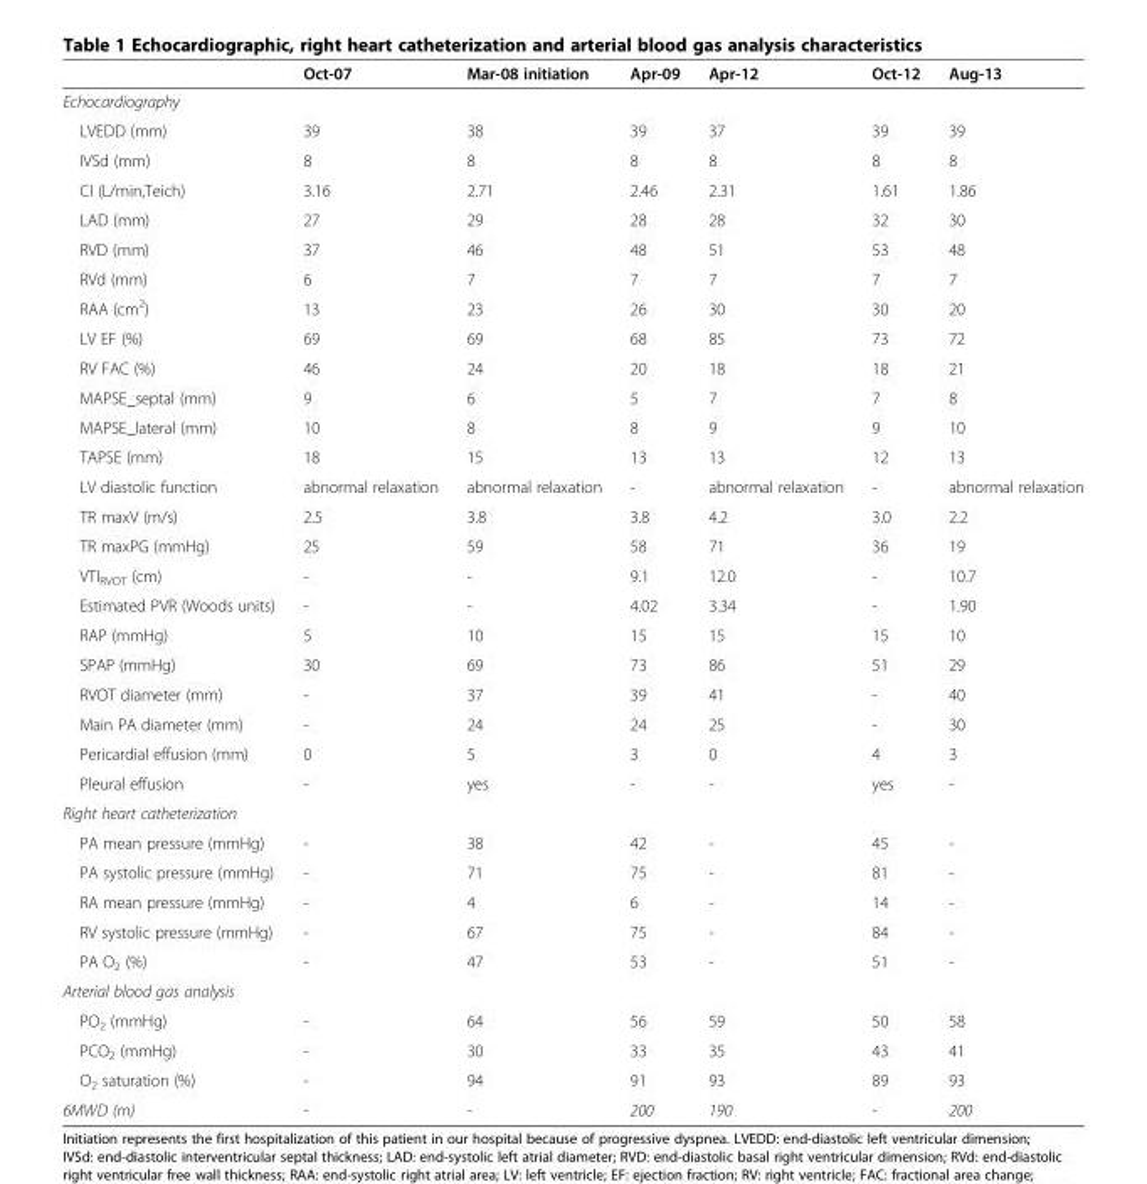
<table><thead><tr><td></td><td>Oct-07</td><td>Mar-08 initiation</td><td>Apr-09</td><td>Apr-12</td><td>Oct-12</td><td>Aug-13</td></tr></thead><tbody><tr><td colspan="7">Echocardiography</td></tr><tr><td>LVEDD (mm)</td><td>39</td><td>38</td><td>39</td><td>37</td><td>39</td><td>39</td></tr><tr><td>IVSd (mm)</td><td>8</td><td>8</td><td>8</td><td>8</td><td>8</td><td>8</td></tr><tr><td>CI (L/min,Teich)</td><td>3.16</td><td>2.71</td><td>2.46</td><td>2.31</td><td>1.61</td><td>1.86</td></tr><tr><td>LAD (mm)</td><td>27</td><td>29</td><td>28</td><td>28</td><td>32</td><td>30</td></tr><tr><td>RVD (mm)</td><td>37</td><td>46</td><td>48</td><td>51</td><td>53</td><td>48</td></tr><tr><td>RVd (mm)</td><td>6</td><td>7</td><td>7</td><td>7</td><td>7</td><td>7</td></tr><tr><td>RAA (cm<sup>2</sup>)</td><td>13</td><td>23</td><td>26</td><td>30</td><td>30</td><td>20</td></tr><tr><td>LV EF (%)</td><td>69</td><td>69</td><td>68</td><td>85</td><td>73</td><td>72</td></tr><tr><td>RV FAC (%)</td><td>46</td><td>24</td><td>20</td><td>18</td><td>18</td><td>21</td></tr><tr><td>MAPSE_septal (mm)</td><td>9</td><td>6</td><td>5</td><td>7</td><td>7</td><td>8</td></tr><tr><td>MAPSE_lateral (mm)</td><td>10</td><td>8</td><td>8</td><td>9</td><td>9</td><td>10</td></tr><tr><td>TAPSE (mm)</td><td>18</td><td>15</td><td>13</td><td>13</td><td>12</td><td>13</td></tr><tr><td>LV diastolic function</td><td>abnormal relaxation</td><td>abnormal relaxation</td><td>-</td><td>abnormal relaxation</td><td>-</td><td>abnormal relaxation</td></tr><tr><td>TR maxV (m/s)</td><td>2.5</td><td>3.8</td><td>3.8</td><td>4.2</td><td>3.0</td><td>2.2</td></tr><tr><td>TR maxPG (mmHg)</td><td>25</td><td>59</td><td>58</td><td>71</td><td>36</td><td>19</td></tr><tr><td>VTI<sub>RVOT</sub> (cm)</td><td>-</td><td>-</td><td>9.1</td><td>12.0</td><td>-</td><td>10.7</td></tr><tr><td>Estimated PVR (Woods units)</td><td>-</td><td>-</td><td>4.02</td><td>3.34</td><td>-</td><td>1.90</td></tr><tr><td>RAP (mmHg)</td><td>5</td><td>10</td><td>15</td><td>15</td><td>15</td><td>10</td></tr><tr><td>SPAP (mmHg)</td><td>30</td><td>69</td><td>73</td><td>86</td><td>51</td><td>29</td></tr><tr><td>RVOT diameter (mm)</td><td>-</td><td>37</td><td>39</td><td>41</td><td>-</td><td>40</td></tr><tr><td>Main PA diameter (mm)</td><td>-</td><td>24</td><td>24</td><td>25</td><td>-</td><td>30</td></tr><tr><td>Pericardial effusion (mm)</td><td>0</td><td>5</td><td>3</td><td>0</td><td>4</td><td>3</td></tr><tr><td>Pleural effusion</td><td>-</td><td>yes</td><td>-</td><td>-</td><td>yes</td><td>-</td></tr><tr><td colspan="7">Right heart catheterization</td></tr><tr><td>PA mean pressure (mmHg)</td><td>-</td><td>38</td><td>42</td><td>-</td><td>45</td><td>-</td></tr><tr><td>PA systolic pressure (mmHg)</td><td>-</td><td>71</td><td>75</td><td>-</td><td>81</td><td>-</td></tr><tr><td>RA mean pressure (mmHg)</td><td>-</td><td>4</td><td>6</td><td>-</td><td>14</td><td>-</td></tr><tr><td>RV systolic pressure (mmHg)</td><td>-</td><td>67</td><td>75</td><td>-</td><td>84</td><td>-</td></tr><tr><td>PA O<sub>2</sub> (%)</td><td>-</td><td>47</td><td>53</td><td>-</td><td>51</td><td>-</td></tr><tr><td colspan="7">Arterial blood gas analysis</td></tr><tr><td>PO<sub>2</sub> (mmHg)</td><td>-</td><td>64</td><td>56</td><td>59</td><td>50</td><td>58</td></tr><tr><td>PCO<sub>2</sub> (mmHg)</td><td>-</td><td>30</td><td>33</td><td>35</td><td>43</td><td>41</td></tr><tr><td>O<sub>2</sub> saturation (%)</td><td>-</td><td>94</td><td>91</td><td>93</td><td>89</td><td>93</td></tr><tr><td>6MWD (m)</td><td>-</td><td>-</td><td>200</td><td>190</td><td>-</td><td>200</td></tr></tbody></table>